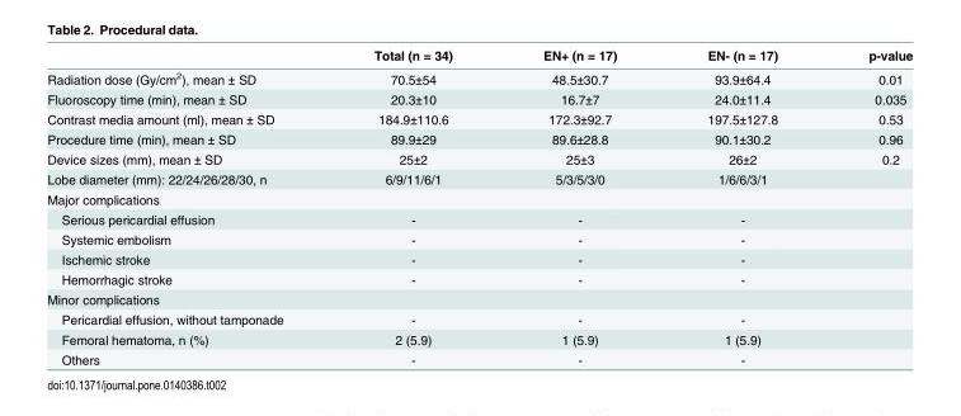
<table><thead><tr><td></td><td>Total (n = 34)</td><td>EN+ (n = 17)</td><td>EN- (n = 17)</td><td>p-value</td></tr></thead><tbody><tr><td>Radiation dose (Gy/cm<sup>2</sup>), mean ± SD</td><td>70.5±54</td><td>48.5±30.7</td><td>93.9±64.4</td><td>0.01</td></tr><tr><td>Fluoroscopy time (min), mean ± SD</td><td>20.3±10</td><td>16.7±7</td><td>24.0±11.4</td><td>0.035</td></tr><tr><td>Contrast media amount (ml), mean ± SD</td><td>184.9±110.6</td><td>172.3±92.7</td><td>197.5±127.8</td><td>0.53</td></tr><tr><td>Procedure time (min), mean ± SD</td><td>89.9±29</td><td>89.6±28.8</td><td>90.1±30.2</td><td>0.96</td></tr><tr><td>Device sizes (mm), mean ± SD</td><td>25±2</td><td>25±3</td><td>26±2</td><td>0.2</td></tr><tr><td>Lobe diameter (mm): 22/24/26/28/30, n</td><td>6/9/11/6/1</td><td>5/3/5/3/0</td><td>1/6/6/3/1</td><td></td></tr><tr><td colspan="5">Major complications</td></tr><tr><td>Serious pericardial effusion</td><td>-</td><td>-</td><td>-</td><td></td></tr><tr><td>Systemic embolism</td><td>-</td><td>-</td><td>-</td><td></td></tr><tr><td>Ischemic stroke</td><td>-</td><td>-</td><td>-</td><td></td></tr><tr><td>Hemorrhagic stroke</td><td>-</td><td>-</td><td>-</td><td></td></tr><tr><td colspan="5">Minor complications</td></tr><tr><td>Pericardial effusion, without tamponade</td><td>-</td><td>-</td><td>-</td><td></td></tr><tr><td>Femoral hematoma, n (%)</td><td>2 (5.9)</td><td>1 (5.9)</td><td>1 (5.9)</td><td></td></tr><tr><td>Others</td><td>-</td><td>-</td><td>-</td><td></td></tr></tbody></table>